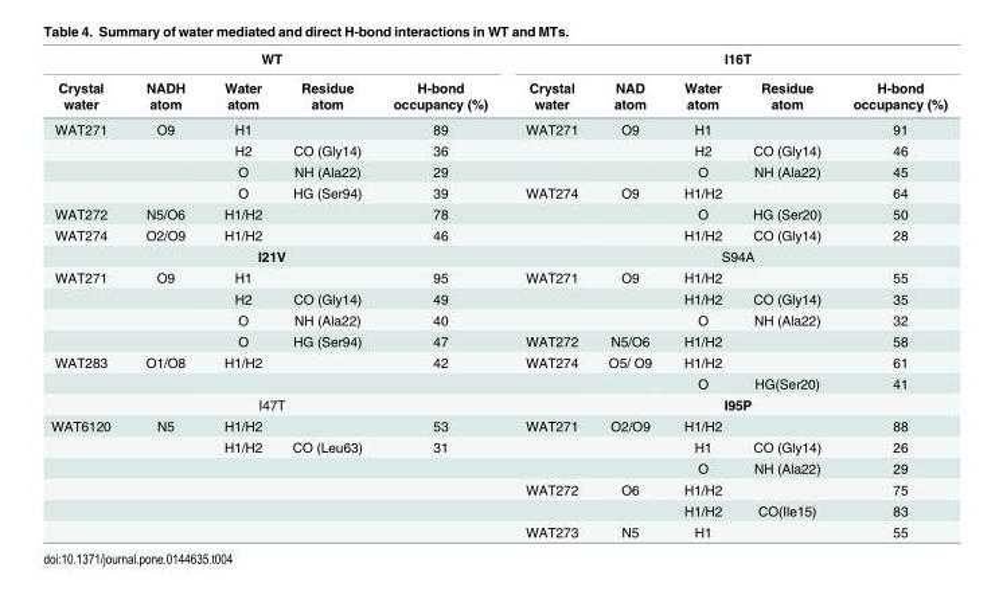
<table><thead><tr><td colspan="5">WT</td><td colspan="5">I16T</td></tr><tr><td>Crystal water</td><td>NADH atom</td><td>Water atom</td><td>Residue atom</td><td>H-bond occupancy (%)</td><td>Crystal water</td><td>NAD atom</td><td>Water atom</td><td>Residue atom</td><td>H-bond occupancy (%)</td></tr></thead><tbody><tr><td rowspan="4">WAT271</td><td>O9</td><td>H1</td><td></td><td>89</td><td>WAT271</td><td>O9</td><td>H1</td><td></td><td>91</td></tr><tr><td></td><td>H2</td><td>CO (Gly14)</td><td>36</td><td></td><td></td><td>H2</td><td>CO (Gly14)</td><td>46</td></tr><tr><td></td><td>O</td><td>NH (Ala22)</td><td>29</td><td></td><td></td><td>O</td><td>NH (Ala22)</td><td>45</td></tr><tr><td></td><td>O</td><td>HG (Ser94)</td><td>39</td><td>WAT274</td><td>O9</td><td>H1/H2</td><td></td><td>64</td></tr><tr><td>WAT272</td><td>N5/O6</td><td>H1/H2</td><td></td><td>78</td><td></td><td></td><td>O</td><td>HG (Ser20)</td><td>50</td></tr><tr><td>WAT274</td><td>O2/O9</td><td>H1/H2</td><td></td><td>46</td><td></td><td></td><td>H1/H2</td><td>CO (Gly14)</td><td>28</td></tr><tr><td colspan="5">I21V</td><td colspan="5">S94A</td></tr><tr><td rowspan="4">WAT271</td><td>O9</td><td>H1</td><td></td><td>95</td><td>WAT271</td><td>O9</td><td>H1/H2</td><td></td><td>55</td></tr><tr><td></td><td>H2</td><td>CO (Gly14)</td><td>49</td><td></td><td></td><td>H1/H2</td><td>CO (Gly14)</td><td>35</td></tr><tr><td></td><td>O</td><td>NH (Ala22)</td><td>40</td><td></td><td></td><td>O</td><td>NH (Ala22)</td><td>32</td></tr><tr><td></td><td>O</td><td>HG (Ser94)</td><td>47</td><td>WAT272</td><td>N5/O6</td><td>H1/H2</td><td></td><td>58</td></tr><tr><td rowspan="2">WAT283</td><td>O1/O8</td><td>H1/H2</td><td></td><td>42</td><td>WAT274</td><td>O5/ O9</td><td>H1/H2</td><td></td><td>61</td></tr><tr><td></td><td></td><td></td><td></td><td></td><td></td><td>O</td><td>HG(Ser20)</td><td>41</td></tr><tr><td colspan="5">I47T</td><td colspan="5">I95P</td></tr><tr><td rowspan="6">WAT6120</td><td>N5</td><td>H1/H2</td><td></td><td>53</td><td>WAT271</td><td>O2/O9</td><td>H1/H2</td><td></td><td>88</td></tr><tr><td></td><td>H1/H2</td><td>CO (Leu63)</td><td>31</td><td></td><td></td><td>H1</td><td>CO (Gly14)</td><td>26</td></tr><tr><td></td><td></td><td></td><td></td><td></td><td></td><td>O</td><td>NH (Ala22)</td><td>29</td></tr><tr><td></td><td></td><td></td><td></td><td>WAT272</td><td>O6</td><td>H1/H2</td><td></td><td>75</td></tr><tr><td></td><td></td><td></td><td></td><td></td><td></td><td>H1/H2</td><td>CO(Ile15)</td><td>83</td></tr><tr><td></td><td></td><td></td><td></td><td>WAT273</td><td>N5</td><td>H1</td><td></td><td>55</td></tr></tbody></table>